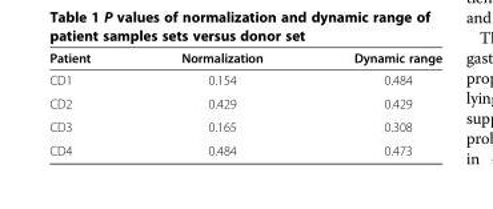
<table><thead><tr><td>Patient</td><td>Normalization</td><td>Dynamic range</td></tr></thead><tbody><tr><td>CD1</td><td>0.154</td><td>0.484</td></tr><tr><td>CD2</td><td>0.429</td><td>0.429</td></tr><tr><td>CD3</td><td>0.165</td><td>0.308</td></tr><tr><td>CD4</td><td>0.484</td><td>0.473</td></tr></tbody></table>